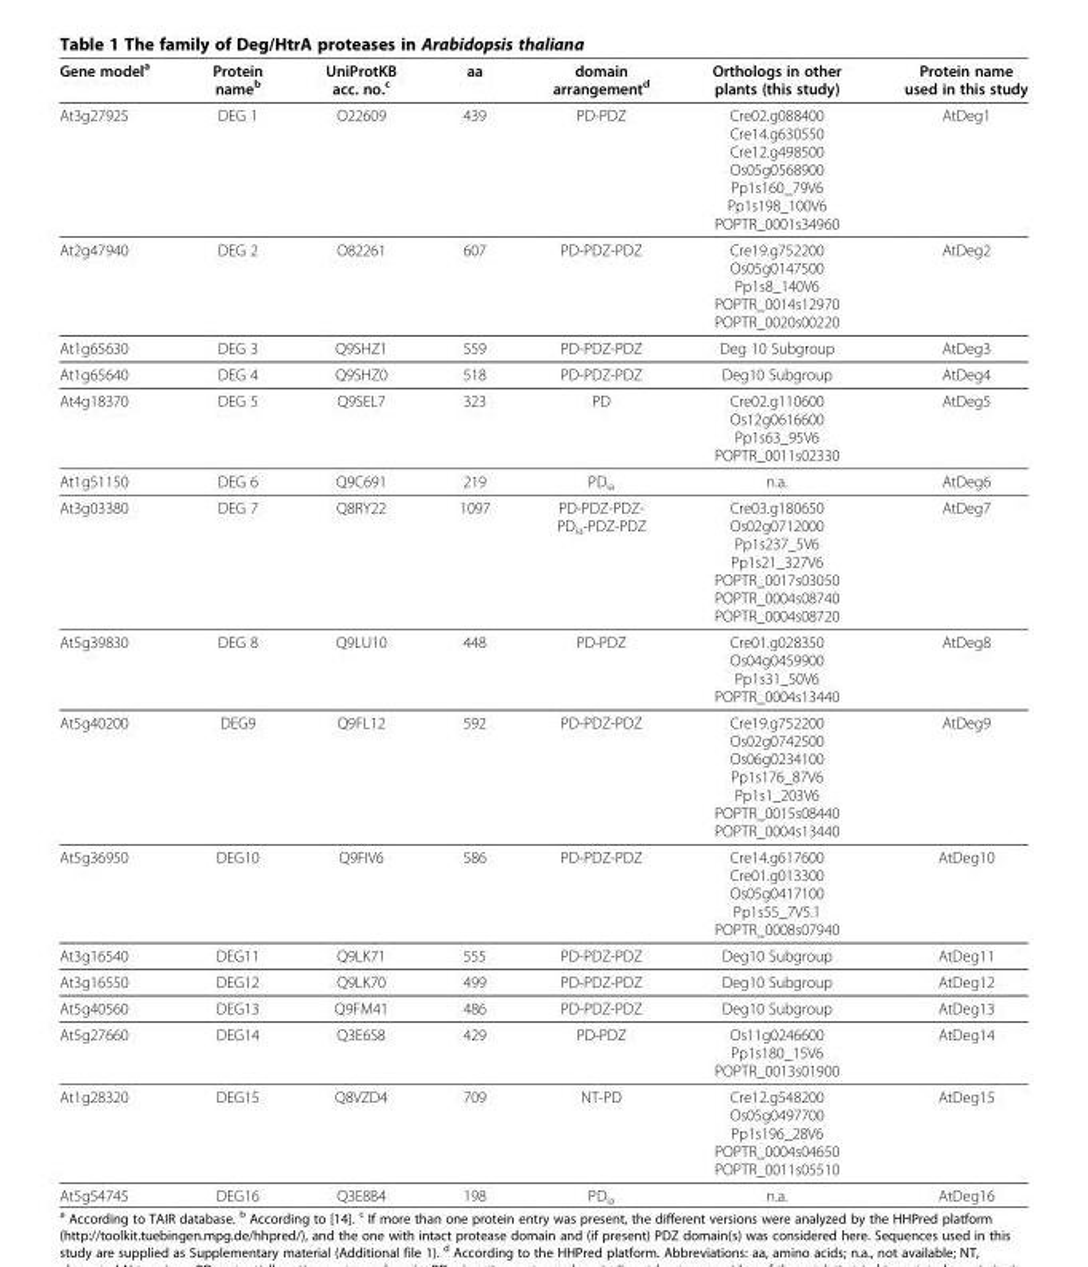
<table><thead><tr><td>Gene model<sup>a</sup></td><td>Protein name<sup>b</sup></td><td>UniProtKB acc. no.<sup>c</sup></td><td>aa</td><td>domain arrangement<sup>d</sup></td><td>Orthologs in other plants (this study)</td><td>Protein name used in this study</td></tr></thead><tbody><tr><td>At3g27925</td><td>DEG 1</td><td>O22609</td><td>439</td><td>PD-PDZ</td><td>Cre02.g088400 Cre14.g630550 Cre12.g498500 Os05g0568900 Pp1s160_79V6 Pp1s198_100V6 POPTR_0001s34960</td><td>AtDeg1</td></tr><tr><td>At2g47940</td><td>DEG 2</td><td>O82261</td><td>607</td><td>PD-PDZ-PDZ</td><td>Cre19.g752200 Os05g0147500 Pp1s8_140V6 POPTR_0014s12970 POPTR_0020s00220</td><td>AtDeg2</td></tr><tr><td>At1g65630</td><td>DEG 3</td><td>Q9SHZ1</td><td>559</td><td>PD-PDZ-PDZ</td><td>Deg 10 Subgroup</td><td>AtDeg3</td></tr><tr><td>At1g65640</td><td>DEG 4</td><td>Q9SHZ0</td><td>518</td><td>PD-PDZ-PDZ</td><td>Deg10 Subgroup</td><td>AtDeg4</td></tr><tr><td>At4g18370</td><td>DEG 5</td><td>Q9SEL7</td><td>323</td><td>PD</td><td>Cre02.g110600 Os12g0616600 Pp1s63_95V6 POPTR_0011s02330</td><td>AtDeg5</td></tr><tr><td>At1g51150</td><td>DEG 6</td><td>Q9C691</td><td>219</td><td>PD<sub>ia</sub></td><td>n.a.</td><td>AtDeg6</td></tr><tr><td>At3g03380</td><td>DEG 7</td><td>Q8RY22</td><td>1097</td><td>PD-PDZ-PDZ- PD<sub>ia</sub>-PDZ-PDZ</td><td>Cre03.g180650 Os02g0712000 Pp1s237_5V6 Pp1s21_327V6 POPTR_0017s03050 POPTR_0004s08740 POPTR_0004s08720</td><td>AtDeg7</td></tr><tr><td>At5g39830</td><td>DEG 8</td><td>Q9LU10</td><td>448</td><td>PD-PDZ</td><td>Cre01.g028350 Os04g0459900 Pp1s31_50V6 POPTR_0004s13440</td><td>AtDeg8</td></tr><tr><td>At5g40200</td><td>DEG9</td><td>Q9FL12</td><td>592</td><td>PD-PDZ-PDZ</td><td>Cre19.g752200 Os02g0742500 Os06g0234100 Pp1s176_87V6 Pp1s1_203V6 POPTR_0015s08440 POPTR_0004s13440</td><td>AtDeg9</td></tr><tr><td>At5g36950</td><td>DEG10</td><td>Q9FIV6</td><td>586</td><td>PD-PDZ-PDZ</td><td>Cre14.g617600 Cre01.g013300 Os05g0417100 Pp1s55_7V5.1 POPTR_0008s07940</td><td>AtDeg10</td></tr><tr><td>At3g16540</td><td>DEG11</td><td>Q9LK71</td><td>555</td><td>PD-PDZ-PDZ</td><td>Deg10 Subgroup</td><td>AtDeg11</td></tr><tr><td>At3g16550</td><td>DEG12</td><td>Q9LK70</td><td>499</td><td>PD-PDZ-PDZ</td><td>Deg10 Subgroup</td><td>AtDeg12</td></tr><tr><td>At5g40560</td><td>DEG13</td><td>Q9FM41</td><td>486</td><td>PD-PDZ-PDZ</td><td>Deg10 Subgroup</td><td>AtDeg13</td></tr><tr><td>At5g27660</td><td>DEG14</td><td>Q3E6S8</td><td>429</td><td>PD-PDZ</td><td>Os11g0246600 Pp1s180_15V6 POPTR_0013s01900</td><td>AtDeg14</td></tr><tr><td>At1g28320</td><td>DEG15</td><td>Q8VZD4</td><td>709</td><td>NT-PD</td><td>Cre12.g548200 Os05g0497700 Pp1s196_28V6 POPTR_0004s04650 POPTR_0011s05510</td><td>AtDeg15</td></tr><tr><td>At5g54745</td><td>DEG16</td><td>Q3E8B4</td><td>198</td><td>PD<sub>ia</sub></td><td>n.a.</td><td>AtDeg16</td></tr></tbody></table>